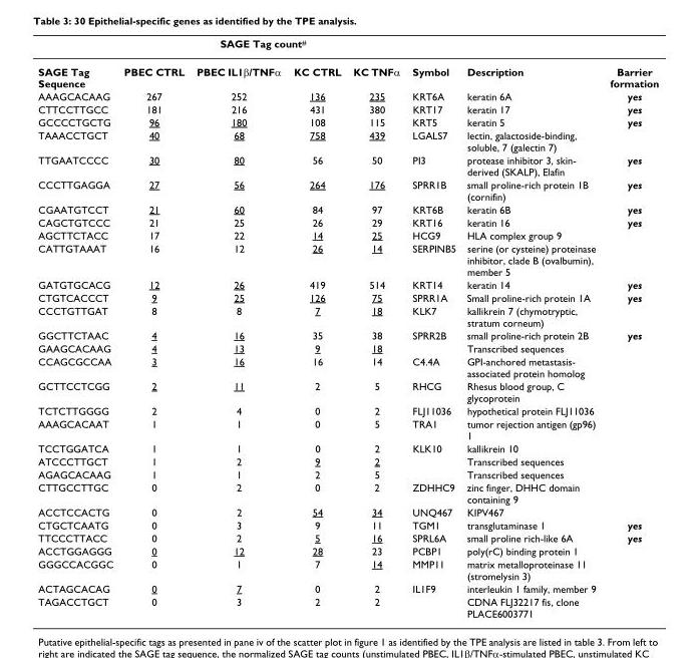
<table><thead><tr><td rowspan="2">SAGE Tag Sequence</td><td colspan="4">SAGE Tag count#</td><td rowspan="2">Symbol</td><td rowspan="2">Description</td><td rowspan="2">Barrier formation</td></tr><tr><td>PBEC CTRL</td><td>PBEC IL1β/TNFα</td><td>KC CTRL</td><td>KC TNFα</td></tr></thead><tbody><tr><td>AAAGCACAAG</td><td>267</td><td>252</td><td>136</td><td>235</td><td>KRT6A</td><td>keratin 6A</td><td>yes</td></tr><tr><td>CTTCCTTGCC</td><td>181</td><td>216</td><td>431</td><td>380</td><td>KRT17</td><td>keratin 17</td><td>yes</td></tr><tr><td>GCCCCTGCTG</td><td>96</td><td>180</td><td>108</td><td>115</td><td>KRT5</td><td>keratin 5</td><td>yes</td></tr><tr><td>TAAACCTGCT</td><td>40</td><td>68</td><td>758</td><td>439</td><td>LGALS7</td><td>lectin, galactoside-binding, soluble, 7 (galectin 7)</td><td></td></tr><tr><td>TTGAATCCCC</td><td>30</td><td>80</td><td>56</td><td>50</td><td>PI3</td><td>protease inhibitor 3, skin- derived (SKALP), Elafin</td><td>yes</td></tr><tr><td>CCCTTGAGGA</td><td>27</td><td>56</td><td>264</td><td>176</td><td>SPRR1B</td><td>small proline-rich protein 1B (cornifin)</td><td>yes</td></tr><tr><td>CGAATGTCCT</td><td>21</td><td>60</td><td>84</td><td>97</td><td>KRT6B</td><td>keratin 6B</td><td>yes</td></tr><tr><td>CAGCTGTCCC</td><td>21</td><td>25</td><td>26</td><td>29</td><td>KRT16</td><td>keratin 16</td><td>yes</td></tr><tr><td>AGCTTCTACC</td><td>17</td><td>22</td><td>14</td><td>25</td><td>HCG9</td><td>HLA complex group 9</td><td></td></tr><tr><td>CATTGTAAAT</td><td>16</td><td>12</td><td>26</td><td>14</td><td>SERPINB5</td><td>serine (or cysteine) proteinase inhibitor, clade B (ovalbumin), member 5</td><td></td></tr><tr><td>GATGTGCACG</td><td>12</td><td>26</td><td>419</td><td>514</td><td>KRT14</td><td>keratin 14</td><td>yes</td></tr><tr><td>CTGTCACCCT</td><td>9</td><td>25</td><td>126</td><td>75</td><td>SPRR1A</td><td>Small proline-rich protein 1A</td><td>yes</td></tr><tr><td>CCCTGTTGAT</td><td>8</td><td>8</td><td>7</td><td>18</td><td>KLK7</td><td>kallikrein 7 (chymotryptic, stratum corneum)</td><td></td></tr><tr><td>GGCTTCTAAC</td><td>4</td><td>16</td><td>35</td><td>38</td><td>SPRR2B</td><td>small proline-rich protein 2B</td><td>yes</td></tr><tr><td>GAAGCACAAG</td><td>4</td><td>13</td><td>9</td><td>18</td><td></td><td>Transcribed sequences</td><td></td></tr><tr><td>CCAGCGCCAA</td><td>3</td><td>16</td><td>16</td><td>14</td><td>C4.4A</td><td>GPI-anchored metastasis- associated protein homolog</td><td></td></tr><tr><td>GCTTCCTCGG</td><td>2</td><td>11</td><td>2</td><td>5</td><td>RHCG</td><td>Rhesus blood group, C glycoprotein</td><td></td></tr><tr><td>TCTCTTGGGG</td><td>2</td><td>4</td><td>0</td><td>2</td><td>FLJ11036</td><td>hypothetical protein FLJ11036</td><td></td></tr><tr><td>AAAGCACAAT</td><td>1</td><td>1</td><td>0</td><td>5</td><td>TRA1</td><td>tumor rejection antigen (gp96) 1</td><td></td></tr><tr><td>TCCTGGATCA</td><td>1</td><td>1</td><td>0</td><td>2</td><td>KLK10</td><td>kallikrein 10</td><td></td></tr><tr><td>ATCCCTTGCT</td><td>1</td><td>2</td><td>9</td><td>2</td><td></td><td>Transcribed sequences</td><td></td></tr><tr><td>AGAGCACAAG</td><td>1</td><td>1</td><td>2</td><td>5</td><td></td><td>Transcribed sequences</td><td></td></tr><tr><td>CTTGCCTTGC</td><td>0</td><td>2</td><td>0</td><td>2</td><td>ZDHHC9</td><td>zinc finger, DHHC domain containing 9</td><td></td></tr><tr><td>ACCTCCACTG</td><td>0</td><td>2</td><td>54</td><td>34</td><td>UNQ467</td><td>KIPV467</td><td></td></tr><tr><td>CTGCTCAATG</td><td>0</td><td>3</td><td>9</td><td>11</td><td>TGM1</td><td>transglutaminase 1</td><td>yes</td></tr><tr><td>TTCCCTTACC</td><td>0</td><td>2</td><td>5</td><td>16</td><td>SPRL6A</td><td>small proline rich-like 6A</td><td>yes</td></tr><tr><td>ACCTGGAGGG</td><td>0</td><td>12</td><td>28</td><td>23</td><td>PCBP1</td><td>poly(rC) binding protein 1</td><td></td></tr><tr><td>GGGCCACGGC</td><td>0</td><td>1</td><td>7</td><td>14</td><td>MMP11</td><td>matrix metalloproteinase 11 (stromelysin 3)</td><td></td></tr><tr><td>ACTAGCACAG</td><td>0</td><td>7</td><td>0</td><td>2</td><td>IL1F9</td><td>interleukin 1 family, member 9</td><td></td></tr><tr><td>TAGACCTGCT</td><td>0</td><td>3</td><td>2</td><td>2</td><td></td><td>CDNA FLJ32217 fis, clone PLACE6003771</td><td></td></tr></tbody></table>